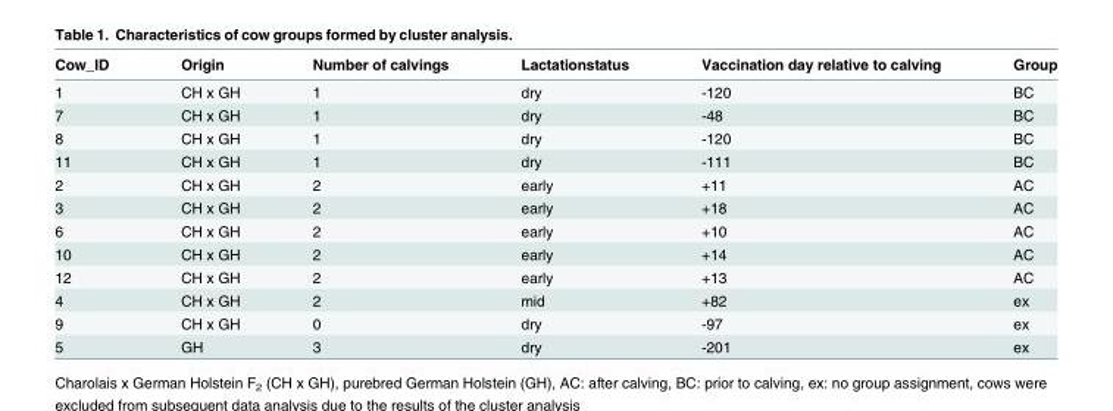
<table><thead><tr><td>Cow_ID</td><td>Origin</td><td>Number of calvings</td><td>Lactationstatus</td><td>Vaccination day relative to calving</td><td>Group</td></tr></thead><tbody><tr><td>1</td><td>CH x GH</td><td>1</td><td>dry</td><td>-120</td><td>BC</td></tr><tr><td>7</td><td>CH x GH</td><td>1</td><td>dry</td><td>-48</td><td>BC</td></tr><tr><td>8</td><td>CH x GH</td><td>1</td><td>dry</td><td>-120</td><td>BC</td></tr><tr><td>11</td><td>CH x GH</td><td>1</td><td>dry</td><td>-111</td><td>BC</td></tr><tr><td>2</td><td>CH x GH</td><td>2</td><td>early</td><td>+11</td><td>AC</td></tr><tr><td>3</td><td>CH x GH</td><td>2</td><td>early</td><td>+18</td><td>AC</td></tr><tr><td>6</td><td>CH x GH</td><td>2</td><td>early</td><td>+10</td><td>AC</td></tr><tr><td>10</td><td>CH x GH</td><td>2</td><td>early</td><td>+14</td><td>AC</td></tr><tr><td>12</td><td>CH x GH</td><td>2</td><td>early</td><td>+13</td><td>AC</td></tr><tr><td>4</td><td>CH x GH</td><td>2</td><td>mid</td><td>+82</td><td>ex</td></tr><tr><td>9</td><td>CH x GH</td><td>0</td><td>dry</td><td>-97</td><td>ex</td></tr><tr><td>5</td><td>GH</td><td>3</td><td>dry</td><td>-201</td><td>ex</td></tr></tbody></table>